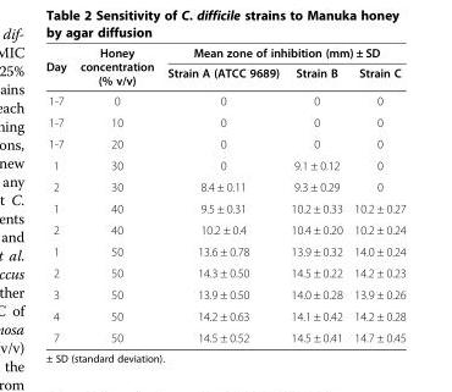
<table><thead><tr><td rowspan="2">Day</td><td rowspan="2">Honey concentration (% v/v)</td><td colspan="3">Mean zone of inhibition (mm) ± SD</td></tr><tr><td>Strain A (ATCC 9689)</td><td>Strain B</td><td>Strain C</td></tr></thead><tbody><tr><td>1-7</td><td>0</td><td>0</td><td>0</td><td>0</td></tr><tr><td>1-7</td><td>10</td><td>0</td><td>0</td><td>0</td></tr><tr><td>1-7</td><td>20</td><td>0</td><td>0</td><td>0</td></tr><tr><td>1</td><td>30</td><td>0</td><td>9.1 ± 0.12</td><td>0</td></tr><tr><td>2</td><td>30</td><td>8.4 ± 0.11</td><td>9.3 ± 0.29</td><td>0</td></tr><tr><td>1</td><td>40</td><td>9.5 ± 0.31</td><td>10.2 ± 0.33</td><td>10.2 ± 0.27</td></tr><tr><td>2</td><td>40</td><td>10.2 ± 0.4</td><td>10.4 ± 0.20</td><td>10.2 ± 0.24</td></tr><tr><td>1</td><td>50</td><td>13.6 ± 0.78</td><td>13.9 ± 0.32</td><td>14.0 ± 0.24</td></tr><tr><td>2</td><td>50</td><td>14.3 ± 0.50</td><td>14.5 ± 0.22</td><td>14.2 ± 0.23</td></tr><tr><td>3</td><td>50</td><td>13.9 ± 0.50</td><td>14.0 ± 0.28</td><td>13.9 ± 0.26</td></tr><tr><td>4</td><td>50</td><td>14.2 ± 0.63</td><td>14.1 ± 0.42</td><td>14.2 ± 0.28</td></tr><tr><td>7</td><td>50</td><td>14.5 ± 0.52</td><td>14.5 ± 0.41</td><td>14.7 ± 0.45</td></tr></tbody></table>